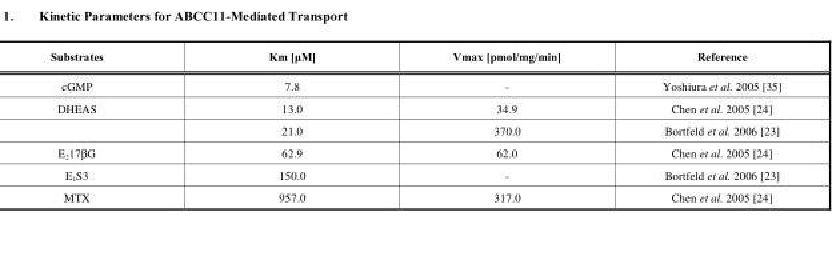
<table><thead><tr><td>Substrates</td><td>Km [μM]</td><td>Vmax [pmol/mg/min]</td><td>Reference</td></tr></thead><tbody><tr><td>cGMP</td><td>7.8</td><td>-</td><td>Yoshiura et al. 2005 [35]</td></tr><tr><td rowspan="2">DHEAS</td><td>13.0</td><td>34.9</td><td>Chen et al. 2005 [24]</td></tr><tr><td>21.0</td><td>370.0</td><td>Bortfeld et al. 2006 [23]</td></tr><tr><td>E<sub>2</sub>17βG</td><td>62.9</td><td>62.0</td><td>Chen et al. 2005 [24]</td></tr><tr><td>E<sub>1</sub>S3</td><td>150.0</td><td>-</td><td>Bortfeld et al. 2006 [23]</td></tr><tr><td>MTX</td><td>957.0</td><td>317.0</td><td>Chen et al. 2005 [24]</td></tr></tbody></table>